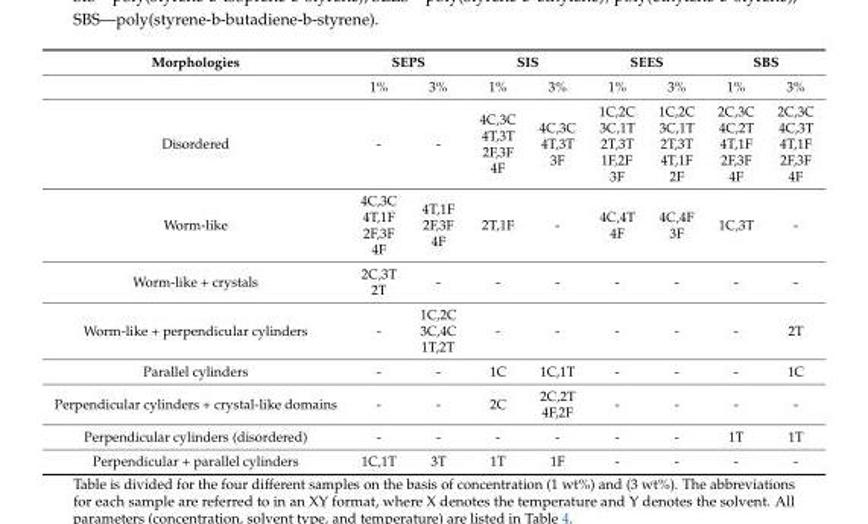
<table><thead><tr><td rowspan="2">Morphologies</td><td colspan="2">SEPS</td><td colspan="2">SIS</td><td colspan="2">SEES</td><td colspan="2">SBS</td></tr><tr><td>1%</td><td>3%</td><td>1%</td><td>3%</td><td>1%</td><td>3%</td><td>1%</td><td>3%</td></tr></thead><tbody><tr><td>Disordered</td><td>-</td><td>-</td><td>4C,3C 4T,3T 2F,3F 4F</td><td>4C,3C 4T,3T 3F</td><td>1C,2C 3C,1T 2T,3T 1F,2F 3F</td><td>1C,2C 3C,1T 2T,3T 4T,1F 2F</td><td>2C,3C 4C,2T 4T,1F 2F,3F 4F</td><td>2C,3C 4C,3T 4T,1F 2F,3F 4F</td></tr><tr><td>Worm-like</td><td>4C,3C 4T,1F 2F,3F 4F</td><td>4T,1F 2F,3F 4F</td><td>2T,1F</td><td>-</td><td>4C,4T 4F</td><td>4C,4F 3F</td><td>1C,3T</td><td>-</td></tr><tr><td>Worm-like + crystals</td><td>2C,3T 2T</td><td>-</td><td>-</td><td>-</td><td>-</td><td>-</td><td>-</td><td>-</td></tr><tr><td>Worm-like + perpendicular cylinders</td><td>-</td><td>1C,2C 3C,4C 1T,2T</td><td>-</td><td>-</td><td>-</td><td>-</td><td>-</td><td>2T</td></tr><tr><td>Parallel cylinders</td><td>-</td><td>-</td><td>1C</td><td>1C,1T</td><td>-</td><td>-</td><td>-</td><td>1C</td></tr><tr><td>Perpendicular cylinders + crystal-like domains</td><td>-</td><td>-</td><td>2C</td><td>2C,2T 4F,2F</td><td>-</td><td>-</td><td>-</td><td>-</td></tr><tr><td>Perpendicular cylinders (disordered)</td><td>-</td><td>-</td><td>-</td><td>-</td><td>-</td><td>-</td><td>1T</td><td>1T</td></tr><tr><td>Perpendicular + parallel cylinders</td><td>1C,1T</td><td>3T</td><td>1T</td><td>1F</td><td>-</td><td>-</td><td>-</td><td>-</td></tr></tbody></table>